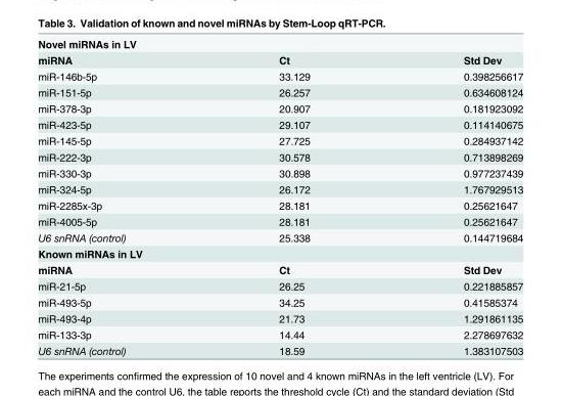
<table><tbody><tr><td colspan="3">Novel miRNAs in LV</td></tr><tr><td>miRNA</td><td>Ct</td><td>Std Dev</td></tr><tr><td>miR-146b-5p</td><td>33.129</td><td>0.398256617</td></tr><tr><td>miR-151-5p</td><td>26.257</td><td>0.634608124</td></tr><tr><td>miR-378-3p</td><td>20.907</td><td>0.181923092</td></tr><tr><td>miR-423-5p</td><td>29.107</td><td>0.114140675</td></tr><tr><td>miR-145-5p</td><td>27.725</td><td>0.284937142</td></tr><tr><td>miR-222-3p</td><td>30.578</td><td>0.713898269</td></tr><tr><td>miR-330-3p</td><td>30.898</td><td>0.977237439</td></tr><tr><td>miR-324-5p</td><td>26.172</td><td>1.767929513</td></tr><tr><td>miR-2285x-3p</td><td>28.181</td><td>0.25621647</td></tr><tr><td>miR-4005-5p</td><td>28.181</td><td>0.25621647</td></tr><tr><td>U6 snRNA (control)</td><td>25.338</td><td>0.144719684</td></tr><tr><td colspan="3">Known miRNAs in LV</td></tr><tr><td>miRNA</td><td>Ct</td><td>Std Dev</td></tr><tr><td>miR-21-5p</td><td>26.25</td><td>0.221885857</td></tr><tr><td>miR-493-5p</td><td>34.25</td><td>0.41585374</td></tr><tr><td>miR-493-4p</td><td>21.73</td><td>1.291861135</td></tr><tr><td>miR-133-3p</td><td>14.44</td><td>2.278697632</td></tr><tr><td>U6 snRNA (control)</td><td>18.59</td><td>1.383107503</td></tr></tbody></table>